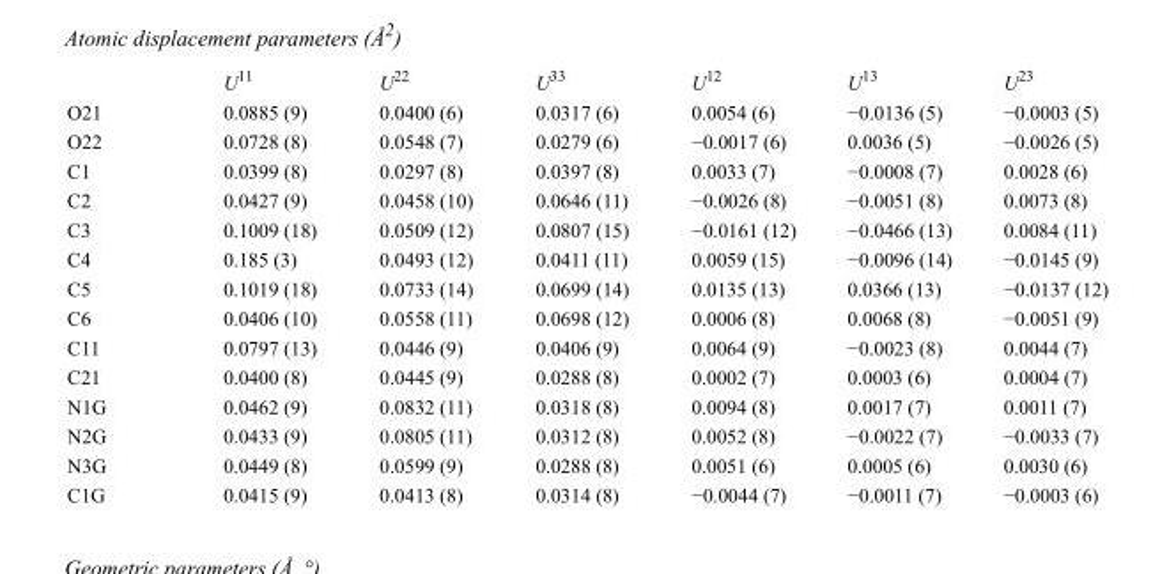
<table><thead><tr><td></td><td>U<sup>11</sup></td><td>U<sup>22</sup></td><td>U<sup>33</sup></td><td>U<sup>12</sup></td><td>U<sup>13</sup></td><td>U<sup>23</sup></td></tr></thead><tbody><tr><td>O21</td><td>0.0885 (9)</td><td>0.0400 (6)</td><td>0.0317 (6)</td><td>0.0054 (6)</td><td>−0.0136 (5)</td><td>−0.0003 (5)</td></tr><tr><td>O22</td><td>0.0728 (8)</td><td>0.0548 (7)</td><td>0.0279 (6)</td><td>−0.0017 (6)</td><td>0.0036 (5)</td><td>−0.0026 (5)</td></tr><tr><td>C1</td><td>0.0399 (8)</td><td>0.0297 (8)</td><td>0.0397 (8)</td><td>0.0033 (7)</td><td>−0.0008 (7)</td><td>0.0028 (6)</td></tr><tr><td>C2</td><td>0.0427 (9)</td><td>0.0458 (10)</td><td>0.0646 (11)</td><td>−0.0026 (8)</td><td>−0.0051 (8)</td><td>0.0073 (8)</td></tr><tr><td>C3</td><td>0.1009 (18)</td><td>0.0509 (12)</td><td>0.0807 (15)</td><td>−0.0161 (12)</td><td>−0.0466 (13)</td><td>0.0084 (11)</td></tr><tr><td>C4</td><td>0.185 (3)</td><td>0.0493 (12)</td><td>0.0411 (11)</td><td>0.0059 (15)</td><td>−0.0096 (14)</td><td>−0.0145 (9)</td></tr><tr><td>C5</td><td>0.1019 (18)</td><td>0.0733 (14)</td><td>0.0699 (14)</td><td>0.0135 (13)</td><td>0.0366 (13)</td><td>−0.0137 (12)</td></tr><tr><td>C6</td><td>0.0406 (10)</td><td>0.0558 (11)</td><td>0.0698 (12)</td><td>0.0006 (8)</td><td>0.0068 (8)</td><td>−0.0051 (9)</td></tr><tr><td>C11</td><td>0.0797 (13)</td><td>0.0446 (9)</td><td>0.0406 (9)</td><td>0.0064 (9)</td><td>−0.0023 (8)</td><td>0.0044 (7)</td></tr><tr><td>C21</td><td>0.0400 (8)</td><td>0.0445 (9)</td><td>0.0288 (8)</td><td>0.0002 (7)</td><td>0.0003 (6)</td><td>0.0004 (7)</td></tr><tr><td>N1G</td><td>0.0462 (9)</td><td>0.0832 (11)</td><td>0.0318 (8)</td><td>0.0094 (8)</td><td>0.0017 (7)</td><td>0.0011 (7)</td></tr><tr><td>N2G</td><td>0.0433 (9)</td><td>0.0805 (11)</td><td>0.0312 (8)</td><td>0.0052 (8)</td><td>−0.0022 (7)</td><td>−0.0033 (7)</td></tr><tr><td>N3G</td><td>0.0449 (8)</td><td>0.0599 (9)</td><td>0.0288 (8)</td><td>0.0051 (6)</td><td>0.0005 (6)</td><td>0.0030 (6)</td></tr><tr><td>C1G</td><td>0.0415 (9)</td><td>0.0413 (8)</td><td>0.0314 (8)</td><td>−0.0044 (7)</td><td>−0.0011 (7)</td><td>−0.0003 (6)</td></tr></tbody></table>